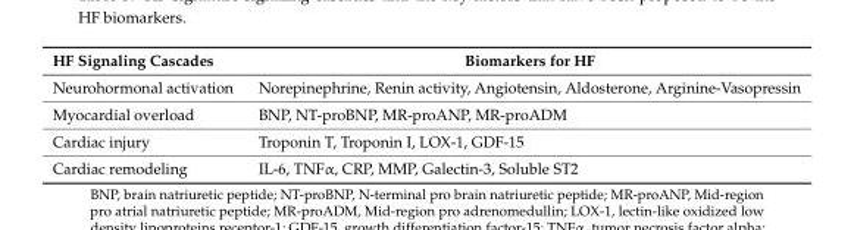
<table><thead><tr><td>HF Signaling Cascades</td><td>Biomarkers for HF</td></tr></thead><tbody><tr><td>Neurohormonal activation</td><td>Norepinephrine, Renin activity, Angiotensin, Aldosterone, Arginine-Vasopressin</td></tr><tr><td>Myocardial overload</td><td>BNP, NT-proBNP, MR-proANP, MR-proADM</td></tr><tr><td>Cardiac injury</td><td>Troponin T, Troponin I, LOX-1, GDF-15</td></tr><tr><td>Cardiac remodeling</td><td>IL-6, TNFα, CRP, MMP, Galectin-3, Soluble ST2</td></tr></tbody></table>